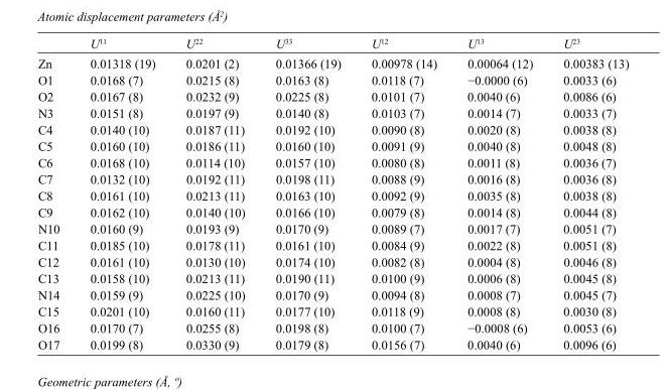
<table><thead><tr><td></td><td>U<sup>11</sup></td><td>U<sup>22</sup></td><td>U<sup>33</sup></td><td>U<sup>12</sup></td><td>U<sup>13</sup></td><td>U<sup>23</sup></td></tr></thead><tbody><tr><td>Zn</td><td>0.01318 (19)</td><td>0.0201 (2)</td><td>0.01366 (19)</td><td>0.00978 (14)</td><td>0.00064 (12)</td><td>0.00383 (13)</td></tr><tr><td>O1</td><td>0.0168 (7)</td><td>0.0215 (8)</td><td>0.0163 (8)</td><td>0.0118 (7)</td><td>−0.0000 (6)</td><td>0.0033 (6)</td></tr><tr><td>O2</td><td>0.0167 (8)</td><td>0.0232 (9)</td><td>0.0225 (8)</td><td>0.0101 (7)</td><td>0.0040 (6)</td><td>0.0086 (6)</td></tr><tr><td>N3</td><td>0.0151 (8)</td><td>0.0197 (9)</td><td>0.0140 (8)</td><td>0.0103 (7)</td><td>0.0014 (7)</td><td>0.0033 (7)</td></tr><tr><td>C4</td><td>0.0140 (10)</td><td>0.0187 (11)</td><td>0.0192 (10)</td><td>0.0090 (8)</td><td>0.0020 (8)</td><td>0.0038 (8)</td></tr><tr><td>C5</td><td>0.0160 (10)</td><td>0.0186 (11)</td><td>0.0160 (10)</td><td>0.0091 (9)</td><td>0.0040 (8)</td><td>0.0048 (8)</td></tr><tr><td>C6</td><td>0.0168 (10)</td><td>0.0114 (10)</td><td>0.0157 (10)</td><td>0.0080 (8)</td><td>0.0011 (8)</td><td>0.0036 (7)</td></tr><tr><td>C7</td><td>0.0132 (10)</td><td>0.0192 (11)</td><td>0.0198 (11)</td><td>0.0088 (9)</td><td>0.0016 (8)</td><td>0.0036 (8)</td></tr><tr><td>C8</td><td>0.0161 (10)</td><td>0.0213 (11)</td><td>0.0163 (10)</td><td>0.0092 (9)</td><td>0.0035 (8)</td><td>0.0038 (8)</td></tr><tr><td>C9</td><td>0.0162 (10)</td><td>0.0140 (10)</td><td>0.0166 (10)</td><td>0.0079 (8)</td><td>0.0014 (8)</td><td>0.0044 (8)</td></tr><tr><td>N10</td><td>0.0160 (9)</td><td>0.0193 (9)</td><td>0.0170 (9)</td><td>0.0089 (7)</td><td>0.0017 (7)</td><td>0.0051 (7)</td></tr><tr><td>C11</td><td>0.0185 (10)</td><td>0.0178 (11)</td><td>0.0161 (10)</td><td>0.0084 (9)</td><td>0.0022 (8)</td><td>0.0051 (8)</td></tr><tr><td>C12</td><td>0.0161 (10)</td><td>0.0130 (10)</td><td>0.0174 (10)</td><td>0.0082 (8)</td><td>0.0004 (8)</td><td>0.0046 (8)</td></tr><tr><td>C13</td><td>0.0158 (10)</td><td>0.0213 (11)</td><td>0.0190 (11)</td><td>0.0100 (9)</td><td>0.0006 (8)</td><td>0.0045 (8)</td></tr><tr><td>N14</td><td>0.0159 (9)</td><td>0.0225 (10)</td><td>0.0170 (9)</td><td>0.0094 (8)</td><td>0.0008 (7)</td><td>0.0045 (7)</td></tr><tr><td>C15</td><td>0.0201 (10)</td><td>0.0160 (11)</td><td>0.0177 (10)</td><td>0.0118 (9)</td><td>0.0008 (8)</td><td>0.0030 (8)</td></tr><tr><td>O16</td><td>0.0170 (7)</td><td>0.0255 (8)</td><td>0.0198 (8)</td><td>0.0100 (7)</td><td>−0.0008 (6)</td><td>0.0053 (6)</td></tr><tr><td>O17</td><td>0.0199 (8)</td><td>0.0330 (9)</td><td>0.0179 (8)</td><td>0.0156 (7)</td><td>0.0040 (6)</td><td>0.0096 (6)</td></tr></tbody></table>